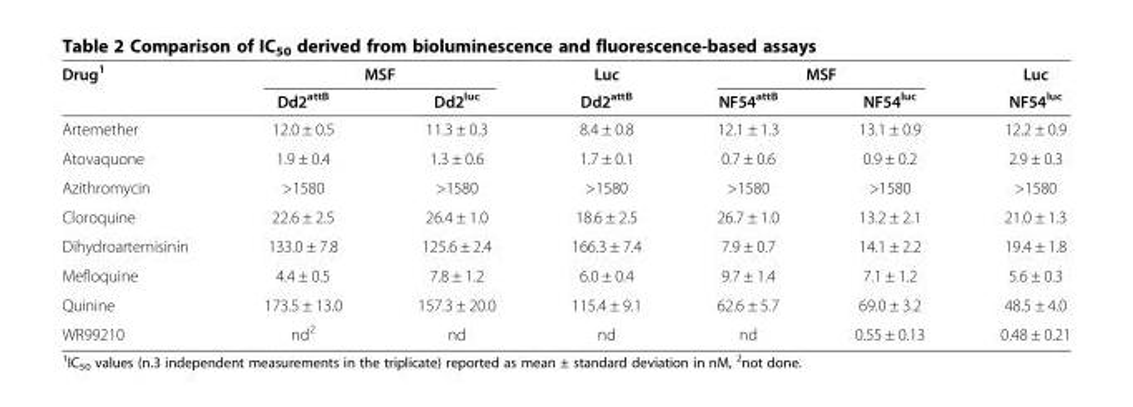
<table><thead><tr><td rowspan="2">Drug<sup>1</sup></td><td colspan="2">MSF</td><td rowspan="2">Luc Dd2<sup>attB</sup></td><td colspan="2">MSF</td><td rowspan="2">Luc NF54<sup>luc</sup></td></tr><tr><td>Dd2<sup>attB</sup></td><td>Dd2<sup>luc</sup></td><td>NF54<sup>attB</sup></td><td>NF54<sup>luc</sup></td></tr></thead><tbody><tr><td>Artemether</td><td>12.0 ± 0.5</td><td>11.3 ± 0.3</td><td>8.4 ± 0.8</td><td>12.1 ± 1.3</td><td>13.1 ± 0.9</td><td>12.2 ± 0.9</td></tr><tr><td>Atovaquone</td><td>1.9 ± 0.4</td><td>1.3 ± 0.6</td><td>1.7 ± 0.1</td><td>0.7 ± 0.6</td><td>0.9 ± 0.2</td><td>2.9 ± 0.3</td></tr><tr><td>Azithromycin</td><td>&gt;1580</td><td>&gt;1580</td><td>&gt;1580</td><td>&gt;1580</td><td>&gt;1580</td><td>&gt;1580</td></tr><tr><td>Cloroquine</td><td>22.6 ± 2.5</td><td>26.4 ± 1.0</td><td>18.6 ± 2.5</td><td>26.7 ± 1.0</td><td>13.2 ± 2.1</td><td>21.0 ± 1.3</td></tr><tr><td>Dihydroartemisinin</td><td>133.0 ± 7.8</td><td>125.6 ± 2.4</td><td>166.3 ± 7.4</td><td>7.9 ± 0.7</td><td>14.1 ± 2.2</td><td>19.4 ± 1.8</td></tr><tr><td>Mefloquine</td><td>4.4 ± 0.5</td><td>7.8 ± 1.2</td><td>6.0 ± 0.4</td><td>9.7 ± 1.4</td><td>7.1 ± 1.2</td><td>5.6 ± 0.3</td></tr><tr><td>Quinine</td><td>173.5 ± 13.0</td><td>157.3 ± 20.0</td><td>115.4 ± 9.1</td><td>62.6 ± 5.7</td><td>69.0 ± 3.2</td><td>48.5 ± 4.0</td></tr><tr><td>WR99210</td><td>nd<sup>2</sup></td><td>nd</td><td>nd</td><td>nd</td><td>0.55 ± 0.13</td><td>0.48 ± 0.21</td></tr></tbody></table>